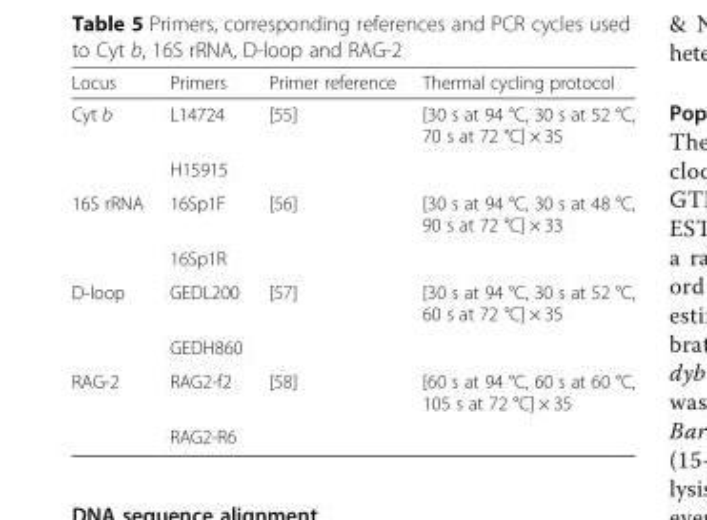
<table><thead><tr><td>Locus</td><td>Primers</td><td>Primer reference</td><td>Thermal cycling protocol</td></tr></thead><tbody><tr><td rowspan="2">Cyt b</td><td>L14724</td><td>[55]</td><td>[30 s at 94 °C, 30 s at 52 °C, 70 s at 72 °C] × 35</td></tr><tr><td>H15915</td><td></td><td></td></tr><tr><td rowspan="2">16S rRNA</td><td>16Sp1F</td><td>[56]</td><td>[30 s at 94 °C, 30 s at 48 °C, 90 s at 72 °C] × 33</td></tr><tr><td>16Sp1R</td><td></td><td></td></tr><tr><td rowspan="2">D-loop</td><td>GEDL200</td><td>[57]</td><td>[30 s at 94 °C, 30 s at 52 °C, 60 s at 72 °C] × 35</td></tr><tr><td>GEDH860</td><td></td><td></td></tr><tr><td rowspan="2">RAG-2</td><td>RAG2-f2</td><td>[58]</td><td>[60 s at 94 °C, 60 s at 60 °C, 105 s at 72 °C] × 35</td></tr><tr><td>RAG2-R6</td><td></td><td></td></tr></tbody></table>